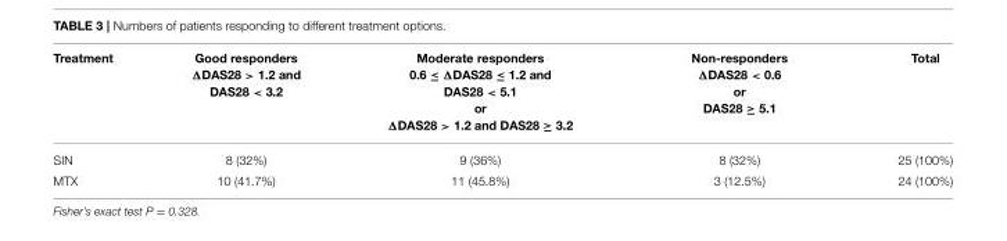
<table><thead><tr><td>Treatment</td><td>Good responders ΔDAS28 &gt; 1.2 and DAS28 &lt; 3.2</td><td>Moderate responders 0.6 ≤ ΔDAS28 ≤ 1.2 and DAS28 &lt; 5.1 or ΔDAS28 &gt; 1.2 and DAS28 ≥ 3.2</td><td>Non-responders ΔDAS28 &lt; 0.6 or DAS28 ≥ 5.1</td><td>Total</td></tr></thead><tbody><tr><td>SIN</td><td>8 (32%)</td><td>9 (36%)</td><td>8 (32%)</td><td>25 (100%)</td></tr><tr><td>MTX</td><td>10 (41.7%)</td><td>11 (45.8%)</td><td>3 (12.5%)</td><td>24 (100%)</td></tr></tbody></table>